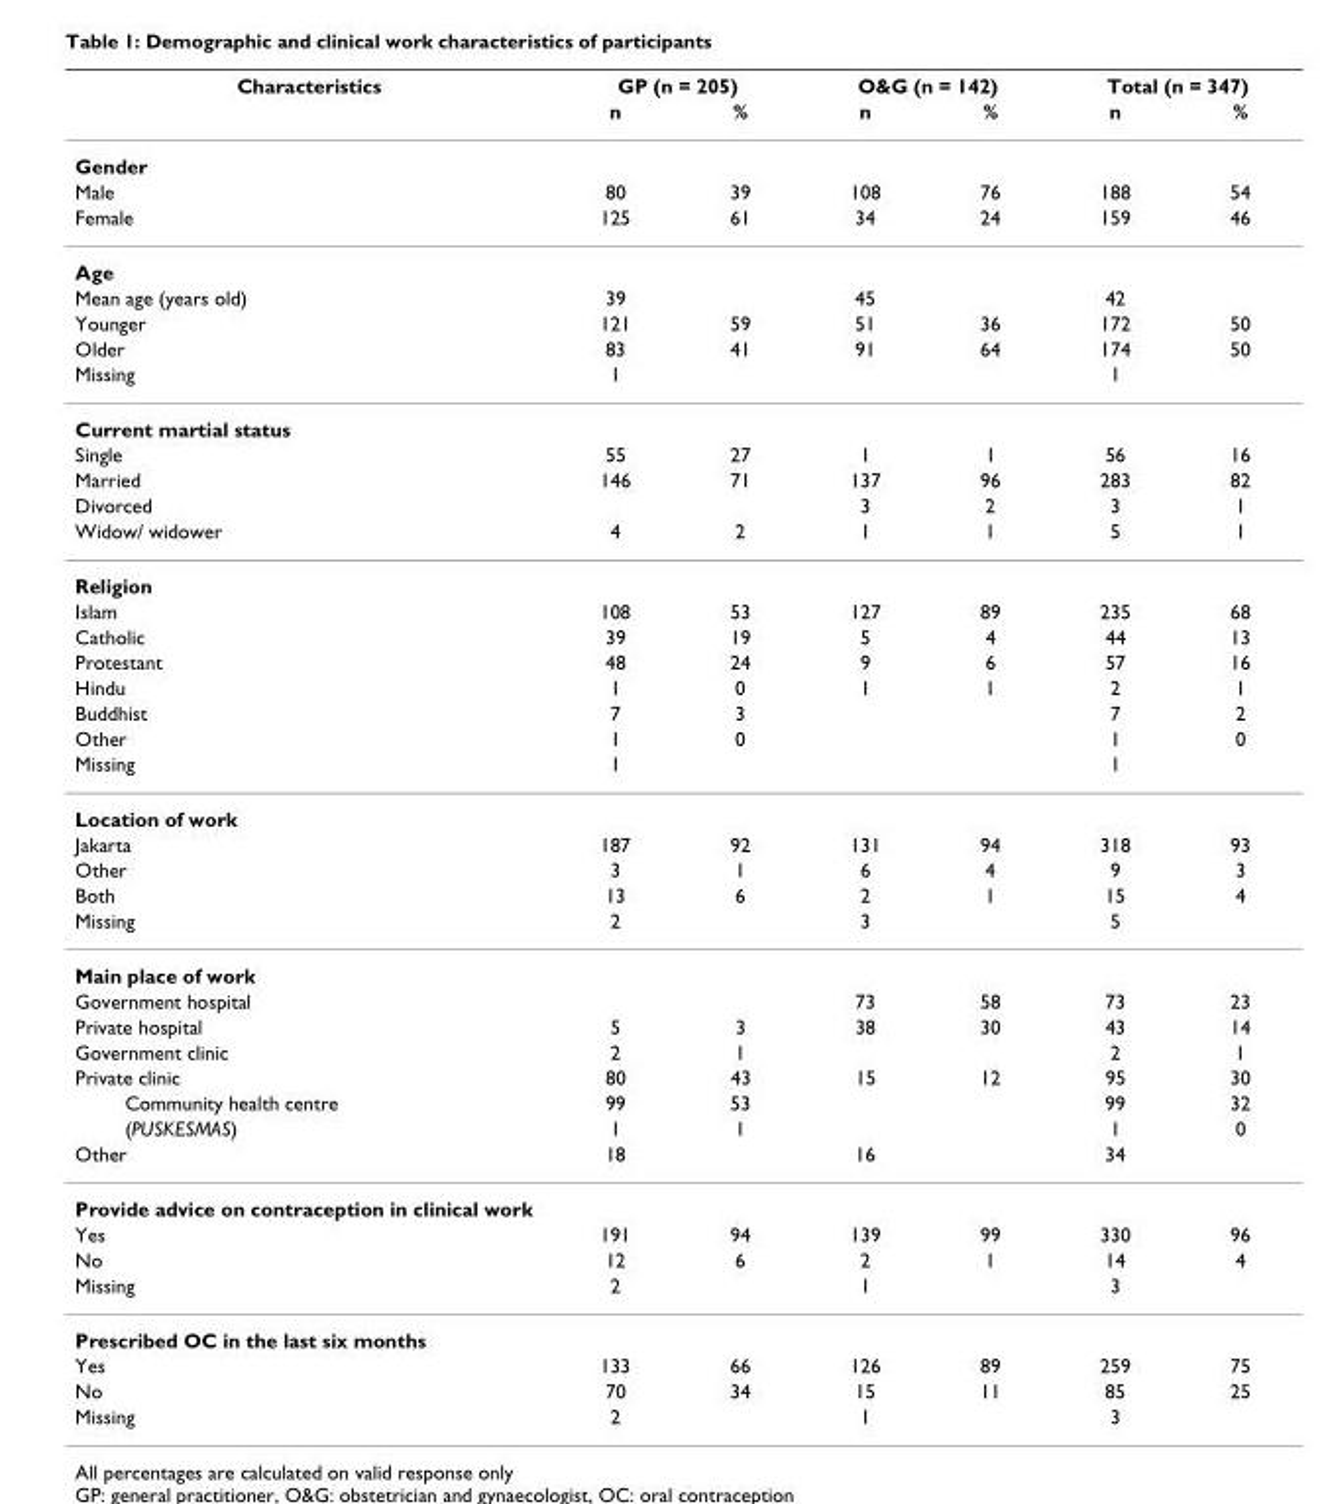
<table><thead><tr><td rowspan="2">Characteristics</td><td colspan="2">GP (n = 205)</td><td colspan="2">O&amp;G (n = 142)</td><td colspan="2">Total (n = 347)</td></tr><tr><td>n</td><td>%</td><td>n</td><td>%</td><td>n</td><td>%</td></tr></thead><tbody><tr><td colspan="7">Gender</td></tr><tr><td>Male</td><td>80</td><td>39</td><td>108</td><td>76</td><td>188</td><td>54</td></tr><tr><td>Female</td><td>125</td><td>61</td><td>34</td><td>24</td><td>159</td><td>46</td></tr><tr><td colspan="7">Age</td></tr><tr><td>Mean age (years old)</td><td>39</td><td></td><td>45</td><td></td><td>42</td><td></td></tr><tr><td>Younger</td><td>121</td><td>59</td><td>51</td><td>36</td><td>172</td><td>50</td></tr><tr><td>Older</td><td>83</td><td>41</td><td>91</td><td>64</td><td>174</td><td>50</td></tr><tr><td>Missing</td><td>1</td><td></td><td></td><td></td><td>1</td><td></td></tr><tr><td colspan="7">Current martial status</td></tr><tr><td>Single</td><td>55</td><td>27</td><td>1</td><td>1</td><td>56</td><td>16</td></tr><tr><td>Married</td><td>146</td><td>71</td><td>137</td><td>96</td><td>283</td><td>82</td></tr><tr><td>Divorced</td><td></td><td></td><td>3</td><td>2</td><td>3</td><td>1</td></tr><tr><td>Widow/ widower</td><td>4</td><td>2</td><td>1</td><td>1</td><td>5</td><td>1</td></tr><tr><td colspan="7">Religion</td></tr><tr><td>Islam</td><td>108</td><td>53</td><td>127</td><td>89</td><td>235</td><td>68</td></tr><tr><td>Catholic</td><td>39</td><td>19</td><td>5</td><td>4</td><td>44</td><td>13</td></tr><tr><td>Protestant</td><td>48</td><td>24</td><td>9</td><td>6</td><td>57</td><td>16</td></tr><tr><td>Hindu</td><td>1</td><td>0</td><td>1</td><td>1</td><td>2</td><td>1</td></tr><tr><td>Buddhist</td><td>7</td><td>3</td><td></td><td></td><td>7</td><td>2</td></tr><tr><td>Other</td><td>1</td><td>0</td><td></td><td></td><td>1</td><td>0</td></tr><tr><td>Missing</td><td>1</td><td></td><td></td><td></td><td>1</td><td></td></tr><tr><td colspan="7">Location of work</td></tr><tr><td>Jakarta</td><td>187</td><td>92</td><td>131</td><td>94</td><td>318</td><td>93</td></tr><tr><td>Other</td><td>3</td><td>1</td><td>6</td><td>4</td><td>9</td><td>3</td></tr><tr><td>Both</td><td>13</td><td>6</td><td>2</td><td>1</td><td>15</td><td>4</td></tr><tr><td>Missing</td><td>2</td><td></td><td>3</td><td></td><td>5</td><td></td></tr><tr><td colspan="7">Main place of work</td></tr><tr><td>Government hospital</td><td></td><td></td><td>73</td><td>58</td><td>73</td><td>23</td></tr><tr><td>Private hospital</td><td>5</td><td>3</td><td>38</td><td>30</td><td>43</td><td>14</td></tr><tr><td>Government clinic</td><td>2</td><td>1</td><td></td><td></td><td>2</td><td>1</td></tr><tr><td>Private clinic</td><td>80</td><td>43</td><td>15</td><td>12</td><td>95</td><td>30</td></tr><tr><td>Community health centre</td><td>99</td><td>53</td><td></td><td></td><td>99</td><td>32</td></tr><tr><td>(PUSKESMAS)</td><td>1</td><td>1</td><td></td><td></td><td>1</td><td>0</td></tr><tr><td>Other</td><td>18</td><td></td><td>16</td><td></td><td>34</td><td></td></tr><tr><td colspan="7">Provide advice on contraception in clinical work</td></tr><tr><td>Yes</td><td>191</td><td>94</td><td>139</td><td>99</td><td>330</td><td>96</td></tr><tr><td>No</td><td>12</td><td>6</td><td>2</td><td>1</td><td>14</td><td>4</td></tr><tr><td>Missing</td><td>2</td><td></td><td>1</td><td></td><td>3</td><td></td></tr><tr><td colspan="7">Prescribed OC in the last six months</td></tr><tr><td>Yes</td><td>133</td><td>66</td><td>126</td><td>89</td><td>259</td><td>75</td></tr><tr><td>No</td><td>70</td><td>34</td><td>15</td><td>11</td><td>85</td><td>25</td></tr><tr><td>Missing</td><td>2</td><td></td><td>1</td><td></td><td>3</td><td></td></tr></tbody></table>